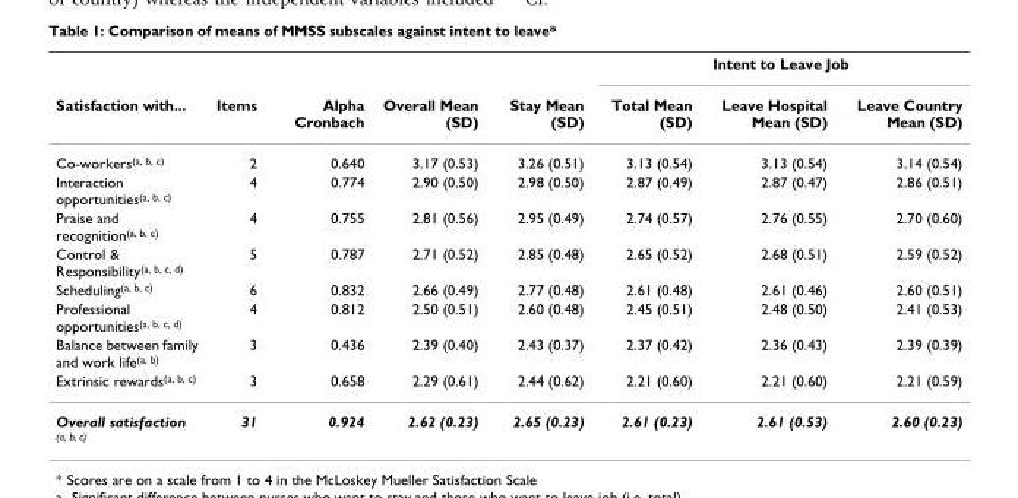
<table><thead><tr><td rowspan="2">Satisfaction with...</td><td rowspan="2">Items</td><td rowspan="2">Alpha Cronbach</td><td rowspan="2">Overall Mean (SD)</td><td rowspan="2">Stay Mean (SD)</td><td colspan="3">Intent to Leave Job</td></tr><tr><td>Total Mean (SD)</td><td>Leave Hospital Mean (SD)</td><td>Leave Country Mean (SD)</td></tr></thead><tbody><tr><td>Co-workers<sup>(a, b, c)</sup></td><td>2</td><td>0.640</td><td>3.17 (0.53)</td><td>3.26 (0.51)</td><td>3.13 (0.54)</td><td>3.13 (0.54)</td><td>3.14 (0.54)</td></tr><tr><td>Interaction opportunities<sup>(a, b, c)</sup></td><td>4</td><td>0.774</td><td>2.90 (0.50)</td><td>2.98 (0.50)</td><td>2.87 (0.49)</td><td>2.87 (0.47)</td><td>2.86 (0.51)</td></tr><tr><td>Praise and recognition<sup>(a, b, c)</sup></td><td>4</td><td>0.755</td><td>2.81 (0.56)</td><td>2.95 (0.49)</td><td>2.74 (0.57)</td><td>2.76 (0.55)</td><td>2.70 (0.60)</td></tr><tr><td>Control &amp; Responsibility<sup>(a, b, c, d)</sup></td><td>5</td><td>0.787</td><td>2.71 (0.52)</td><td>2.85 (0.48)</td><td>2.65 (0.52)</td><td>2.68 (0.51)</td><td>2.59 (0.52)</td></tr><tr><td>Scheduling<sup>(a, b, c)</sup></td><td>6</td><td>0.832</td><td>2.66 (0.49)</td><td>2.77 (0.48)</td><td>2.61 (0.48)</td><td>2.61 (0.46)</td><td>2.60 (0.51)</td></tr><tr><td>Professional opportunities<sup>(a, b, c, d)</sup></td><td>4</td><td>0.812</td><td>2.50 (0.51)</td><td>2.60 (0.48)</td><td>2.45 (0.51)</td><td>2.48 (0.50)</td><td>2.41 (0.53)</td></tr><tr><td>Balance between family and work life<sup>(a, b)</sup></td><td>3</td><td>0.436</td><td>2.39 (0.40)</td><td>2.43 (0.37)</td><td>2.37 (0.42)</td><td>2.36 (0.43)</td><td>2.39 (0.39)</td></tr><tr><td>Extrinsic rewards<sup>(a, b, c)</sup></td><td>3</td><td>0.658</td><td>2.29 (0.61)</td><td>2.44 (0.62)</td><td>2.21 (0.60)</td><td>2.21 (0.60)</td><td>2.21 (0.59)</td></tr><tr><td>Overall satisfaction <sup>(a, b, c)</sup></td><td>31</td><td>0.924</td><td>2.62 (0.23)</td><td>2.65 (0.23)</td><td>2.61 (0.23)</td><td>2.61 (0.53)</td><td>2.60 (0.23)</td></tr></tbody></table>